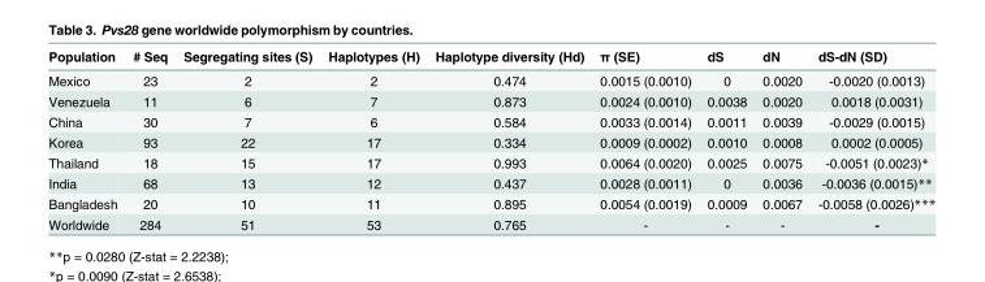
<table><thead><tr><td>Population</td><td># Seq</td><td>Segregating sites (S)</td><td>Haplotypes (H)</td><td>Haplotype diversity (Hd)</td><td>π (SE)</td><td>dS</td><td>dN</td><td>dS-dN (SD)</td></tr></thead><tbody><tr><td>Mexico</td><td>23</td><td>2</td><td>2</td><td>0.474</td><td>0.0015 (0.0010)</td><td>0</td><td>0.0020</td><td>-0.0020 (0.0013)</td></tr><tr><td>Venezuela</td><td>11</td><td>6</td><td>7</td><td>0.873</td><td>0.0024 (0.0010)</td><td>0.0038</td><td>0.0020</td><td>0.0018 (0.0031)</td></tr><tr><td>China</td><td>30</td><td>7</td><td>6</td><td>0.584</td><td>0.0033 (0.0014)</td><td>0.0011</td><td>0.0039</td><td>-0.0029 (0.0015)</td></tr><tr><td>Korea</td><td>93</td><td>22</td><td>17</td><td>0.334</td><td>0.0009 (0.0002)</td><td>0.0010</td><td>0.0008</td><td>0.0002 (0.0005)</td></tr><tr><td>Thailand</td><td>18</td><td>15</td><td>17</td><td>0.993</td><td>0.0064 (0.0020)</td><td>0.0025</td><td>0.0075</td><td>-0.0051 (0.0023)*</td></tr><tr><td>India</td><td>68</td><td>13</td><td>12</td><td>0.437</td><td>0.0028 (0.0011)</td><td>0</td><td>0.0036</td><td>-0.0036 (0.0015)**</td></tr><tr><td>Bangladesh</td><td>20</td><td>10</td><td>11</td><td>0.895</td><td>0.0054 (0.0019)</td><td>0.0009</td><td>0.0067</td><td>-0.0058 (0.0026)***</td></tr><tr><td>Worldwide</td><td>284</td><td>51</td><td>53</td><td>0.765</td><td>-</td><td>-</td><td>-</td><td>-</td></tr></tbody></table>